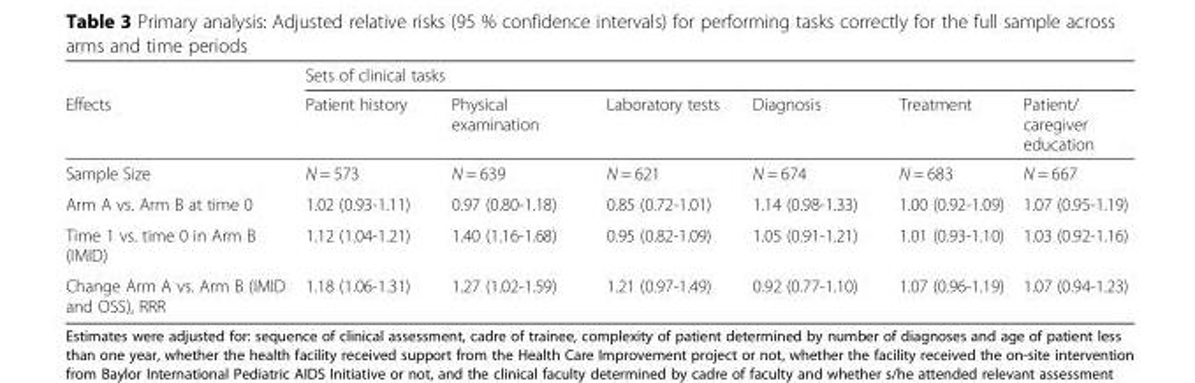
<table><thead><tr><td rowspan="2">Effects</td><td colspan="6">Sets of clinical tasks</td></tr><tr><td>Patient history</td><td>Physical examination</td><td>Laboratory tests</td><td>Diagnosis</td><td>Treatment</td><td>Patient/ caregiver education</td></tr></thead><tbody><tr><td>Sample Size</td><td>N = 573</td><td>N = 639</td><td>N = 621</td><td>N = 674</td><td>N = 683</td><td>N = 667</td></tr><tr><td>Arm A vs. Arm B at time 0</td><td>1.02 (0.93-1.11)</td><td>0.97 (0.80-1.18)</td><td>0.85 (0.72-1.01)</td><td>1.14 (0.98-1.33)</td><td>1.00 (0.92-1.09)</td><td>1.07 (0.95-1.19)</td></tr><tr><td>Time 1 vs. time 0 in Arm B (IMID)</td><td>1.12 (1.04-1.21)</td><td>1.40 (1.16-1.68)</td><td>0.95 (0.82-1.09)</td><td>1.05 (0.91-1.21)</td><td>1.01 (0.93-1.10)</td><td>1.03 (0.92-1.16)</td></tr><tr><td>Change Arm A vs. Arm B (IMID and OSS), RRR</td><td>1.18 (1.06-1.31)</td><td>1.27 (1.02-1.59)</td><td>1.21 (0.97-1.49)</td><td>0.92 (0.77-1.10)</td><td>1.07 (0.96-1.19)</td><td>1.07 (0.94-1.23)</td></tr></tbody></table>